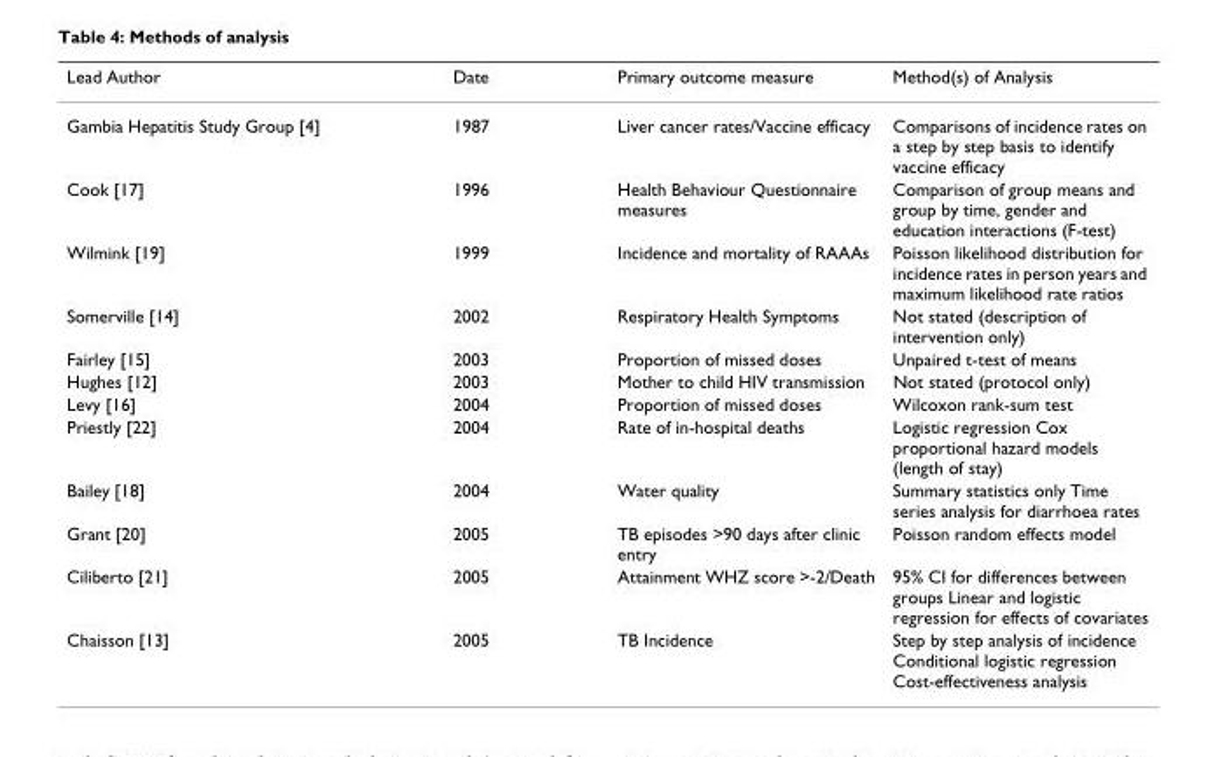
<table><thead><tr><td>Lead Author</td><td>Date</td><td>Primary outcome measure</td><td>Method(s) of Analysis</td></tr></thead><tbody><tr><td>Gambia Hepatitis Study Group [4]</td><td>1987</td><td>Liver cancer rates/Vaccine efficacy</td><td>Comparisons of incidence rates on a step by step basis to identify vaccine efficacy</td></tr><tr><td>Cook [17]</td><td>1996</td><td>Health Behaviour Questionnaire measures</td><td>Comparison of group means and group by time, gender and education interactions (F-test)</td></tr><tr><td>Wilmink [19]</td><td>1999</td><td>Incidence and mortality of RAAAs</td><td>Poisson likelihood distribution for incidence rates in person years and maximum likelihood rate ratios</td></tr><tr><td>Somerville [14]</td><td>2002</td><td>Respiratory Health Symptoms</td><td>Not stated (description of intervention only)</td></tr><tr><td>Fairley [15]</td><td>2003</td><td>Proportion of missed doses</td><td>Unpaired t-test of means</td></tr><tr><td>Hughes [12]</td><td>2003</td><td>Mother to child HIV transmission</td><td>Not stated (protocol only)</td></tr><tr><td>Levy [16]</td><td>2004</td><td>Proportion of missed doses</td><td>Wilcoxon rank-sum test</td></tr><tr><td>Priestly [22]</td><td>2004</td><td>Rate of in-hospital deaths</td><td>Logistic regression Cox proportional hazard models (length of stay)</td></tr><tr><td>Bailey [18]</td><td>2004</td><td>Water quality</td><td>Summary statistics only Time series analysis for diarrhoea rates</td></tr><tr><td>Grant [20]</td><td>2005</td><td>TB episodes &gt;90 days after clinic entry</td><td>Poisson random effects model</td></tr><tr><td>Ciliberto [21]</td><td>2005</td><td>Attainment WHZ score &gt;-2/Death</td><td>95% CI for differences between groups Linear and logistic regression for effects of covariates</td></tr><tr><td>Chaisson [13]</td><td>2005</td><td>TB Incidence</td><td>Step by step analysis of incidence Conditional logistic regression Cost-effectiveness analysis</td></tr></tbody></table>